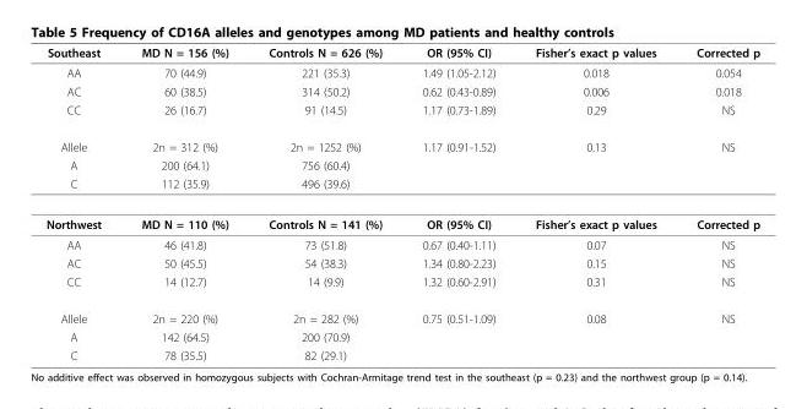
<table><thead><tr><td>Southeast</td><td>MD N = 156 (%)</td><td>Controls N = 626 (%)</td><td>OR (95% CI)</td><td>Fisher’s exact p values</td><td>Corrected p</td></tr></thead><tbody><tr><td>AA</td><td>70 (44.9)</td><td>221 (35.3)</td><td>1.49 (1.05-2.12)</td><td>0.018</td><td>0.054</td></tr><tr><td>AC</td><td>60 (38.5)</td><td>314 (50.2)</td><td>0.62 (0.43-0.89)</td><td>0.006</td><td>0.018</td></tr><tr><td>CC</td><td>26 (16.7)</td><td>91 (14.5)</td><td>1.17 (0.73-1.89)</td><td>0.29</td><td>NS</td></tr><tr><td>Allele</td><td>2n = 312 (%)</td><td>2n = 1252 (%)</td><td>1.17 (0.91-1.52)</td><td>0.13</td><td>NS</td></tr><tr><td>A</td><td>200 (64.1)</td><td>756 (60.4)</td><td></td><td></td><td></td></tr><tr><td>C</td><td>112 (35.9)</td><td>496 (39.6)</td><td></td><td></td><td></td></tr><tr><td>Northwest</td><td>MD N = 110 (%)</td><td>Controls N = 141 (%)</td><td>OR (95% CI)</td><td>Fisher’s exact p values</td><td>Corrected p</td></tr><tr><td>AA</td><td>46 (41.8)</td><td>73 (51.8)</td><td>0.67 (0.40-1.11)</td><td>0.07</td><td>NS</td></tr><tr><td>AC</td><td>50 (45.5)</td><td>54 (38.3)</td><td>1.34 (0.80-2.23)</td><td>0.15</td><td>NS</td></tr><tr><td>CC</td><td>14 (12.7)</td><td>14 (9.9)</td><td>1.32 (0.60-2.91)</td><td>0.31</td><td>NS</td></tr><tr><td>Allele</td><td>2n = 220 (%)</td><td>2n = 282 (%)</td><td>0.75 (0.51-1.09)</td><td>0.08</td><td>NS</td></tr><tr><td>A</td><td>142 (64.5)</td><td>200 (70.9)</td><td></td><td></td><td></td></tr><tr><td>C</td><td>78 (35.5)</td><td>82 (29.1)</td><td></td><td></td><td></td></tr></tbody></table>